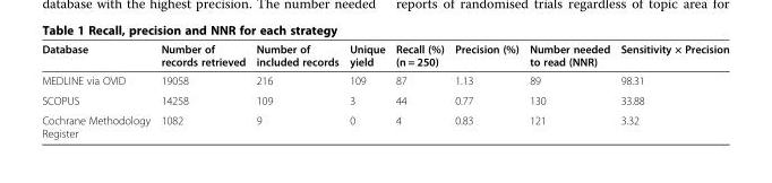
<table><thead><tr><td>Database</td><td>Number of records retrieved</td><td>Number of included records</td><td>Unique yield</td><td>Recall (%) (n = 250)</td><td>Precision (%)</td><td>Number needed to read (NNR)</td><td>Sensitivity × Precision</td></tr></thead><tbody><tr><td>MEDLINE via OVID</td><td>19058</td><td>216</td><td>109</td><td>87</td><td>1.13</td><td>89</td><td>98.31</td></tr><tr><td>SCOPUS</td><td>14258</td><td>109</td><td>3</td><td>44</td><td>0.77</td><td>130</td><td>33.88</td></tr><tr><td>Cochrane Methodology Register</td><td>1082</td><td>9</td><td>0</td><td>4</td><td>0.83</td><td>121</td><td>3.32</td></tr></tbody></table>